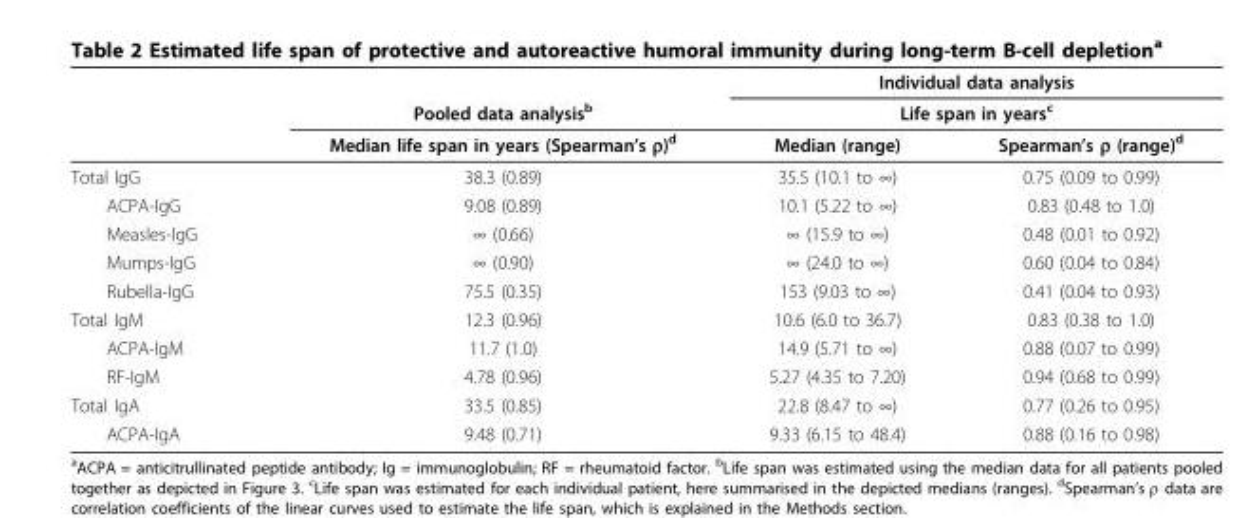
<table><thead><tr><td rowspan="3"></td><td rowspan="3">Pooled data analysis<sup>b</sup> Median life span in years (Spearman’s ρ)<sup>d</sup></td><td rowspan="2" colspan="2">Individual data analysis Life span in years<sup>c</sup></td></tr><tr></tr><tr><td>Median (range)</td><td>Spearman’s ρ (range)<sup>d</sup></td></tr></thead><tbody><tr><td>Total IgG</td><td>38.3 (0.89)</td><td>35.5 (10.1 to ∞)</td><td>0.75 (0.09 to 0.99)</td></tr><tr><td>ACPA-IgG</td><td>9.08 (0.89)</td><td>10.1 (5.22 to ∞)</td><td>0.83 (0.48 to 1.0)</td></tr><tr><td>Measles-IgG</td><td>∞ (0.66)</td><td>∞ (15.9 to ∞)</td><td>0.48 (0.01 to 0.92)</td></tr><tr><td>Mumps-IgG</td><td>∞ (0.90)</td><td>∞ (24.0 to ∞)</td><td>0.60 (0.04 to 0.84)</td></tr><tr><td>Rubella-IgG</td><td>75.5 (0.35)</td><td>153 (9.03 to ∞)</td><td>0.41 (0.04 to 0.93)</td></tr><tr><td>Total IgM</td><td>12.3 (0.96)</td><td>10.6 (6.0 to 36.7)</td><td>0.83 (0.38 to 1.0)</td></tr><tr><td>ACPA-IgM</td><td>11.7 (1.0)</td><td>14.9 (5.71 to ∞)</td><td>0.88 (0.07 to 0.99)</td></tr><tr><td>RF-IgM</td><td>4.78 (0.96)</td><td>5.27 (4.35 to 7.20)</td><td>0.94 (0.68 to 0.99)</td></tr><tr><td>Total IgA</td><td>33.5 (0.85)</td><td>22.8 (8.47 to ∞)</td><td>0.77 (0.26 to 0.95)</td></tr><tr><td>ACPA-IgA</td><td>9.48 (0.71)</td><td>9.33 (6.15 to 48.4)</td><td>0.88 (0.16 to 0.98)</td></tr></tbody></table>